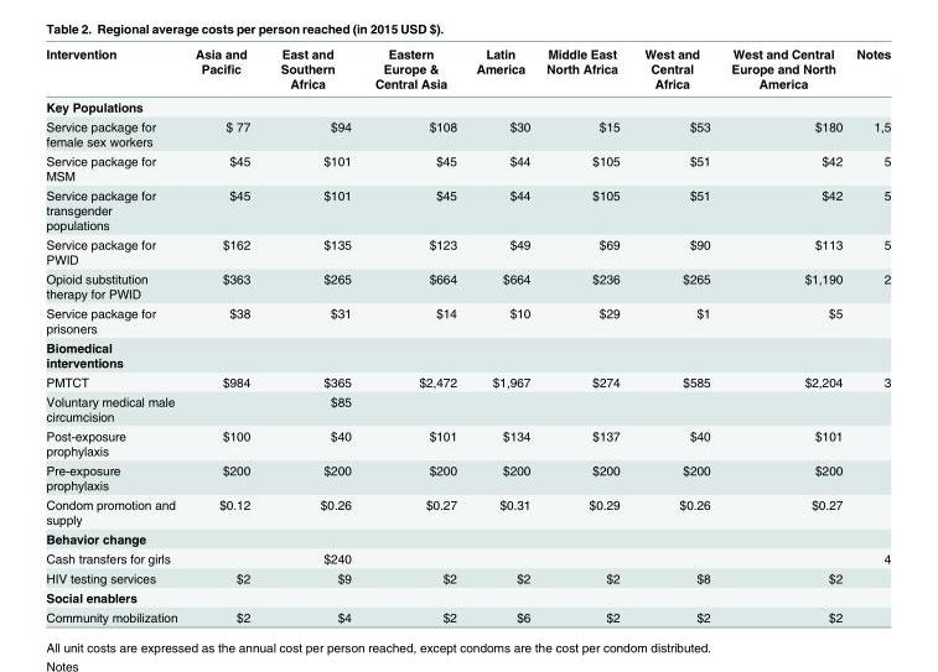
<table><thead><tr><td>Intervention</td><td>Asia and Pacific</td><td>East and Southern Africa</td><td>Eastern Europe &amp; Central Asia</td><td>Latin America</td><td>Middle East North Africa</td><td>West and Central Africa</td><td>West and Central Europe and North America</td><td>Notes</td></tr></thead><tbody><tr><td colspan="9">Key Populations</td></tr><tr><td>Service package for female sex workers</td><td>$ 77</td><td>$94</td><td>$108</td><td>$30</td><td>$15</td><td>$53</td><td>$180</td><td>1,5</td></tr><tr><td>Service package for MSM</td><td>$45</td><td>$101</td><td>$45</td><td>$44</td><td>$105</td><td>$51</td><td>$42</td><td>5</td></tr><tr><td>Service package for transgender populations</td><td>$45</td><td>$101</td><td>$45</td><td>$44</td><td>$105</td><td>$51</td><td>$42</td><td>5</td></tr><tr><td>Service package for PWID</td><td>$162</td><td>$135</td><td>$123</td><td>$49</td><td>$69</td><td>$90</td><td>$113</td><td>5</td></tr><tr><td>Opioid substitution therapy for PWID</td><td>$363</td><td>$265</td><td>$664</td><td>$664</td><td>$236</td><td>$265</td><td>$1,190</td><td>2</td></tr><tr><td>Service package for prisoners</td><td>$38</td><td>$31</td><td>$14</td><td>$10</td><td>$29</td><td>$1</td><td>$5</td><td></td></tr><tr><td colspan="9">Biomedical interventions</td></tr><tr><td>PMTCT</td><td>$984</td><td>$365</td><td>$2,472</td><td>$1,967</td><td>$274</td><td>$585</td><td>$2,204</td><td>3</td></tr><tr><td>Voluntary medical male circumcision</td><td></td><td>$85</td><td></td><td></td><td></td><td></td><td></td><td></td></tr><tr><td>Post-exposure prophylaxis</td><td>$100</td><td>$40</td><td>$101</td><td>$134</td><td>$137</td><td>$40</td><td>$101</td><td></td></tr><tr><td>Pre-exposure prophylaxis</td><td>$200</td><td>$200</td><td>$200</td><td>$200</td><td>$200</td><td>$200</td><td>$200</td><td></td></tr><tr><td>Condom promotion and supply</td><td>$0.12</td><td>$0.26</td><td>$0.27</td><td>$0.31</td><td>$0.29</td><td>$0.26</td><td>$0.27</td><td></td></tr><tr><td colspan="9">Behavior change</td></tr><tr><td>Cash transfers for girls</td><td></td><td>$240</td><td></td><td></td><td></td><td></td><td></td><td>4</td></tr><tr><td>HIV testing services</td><td>$2</td><td>$9</td><td>$2</td><td>$2</td><td>$2</td><td>$8</td><td>$2</td><td></td></tr><tr><td colspan="9">Social enablers</td></tr><tr><td>Community mobilization</td><td>$2</td><td>$4</td><td>$2</td><td>$6</td><td>$2</td><td>$2</td><td>$2</td><td></td></tr></tbody></table>